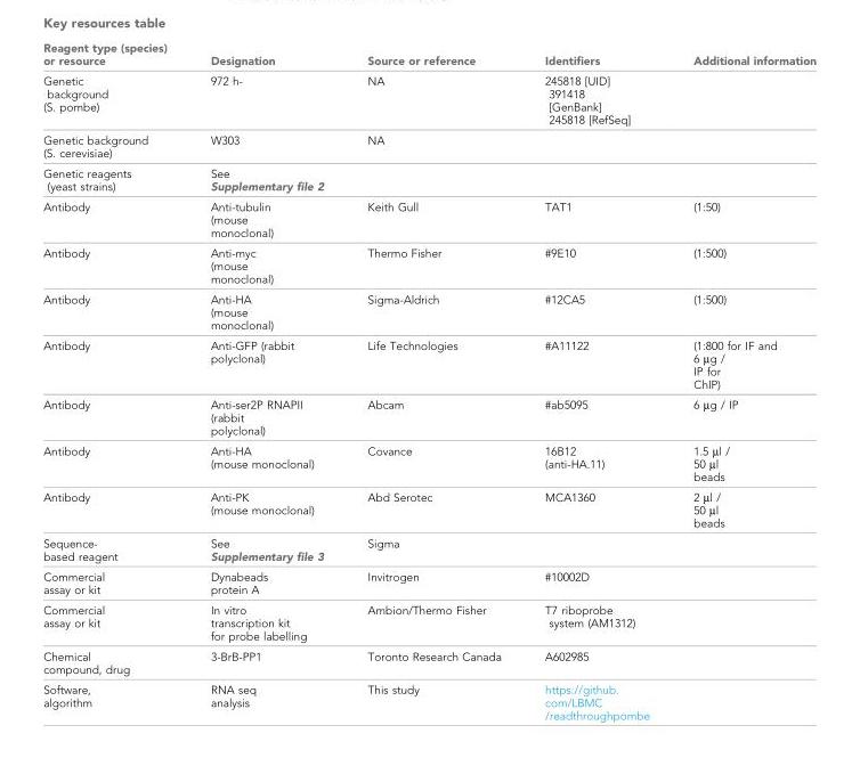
<table><thead><tr><td>Reagent type (species) or resource</td><td>Designation</td><td>Source or reference</td><td>Identifiers</td><td>Additional information</td></tr></thead><tbody><tr><td>Genetic background (S. pombe)</td><td>972 h-</td><td>NA</td><td>245818 [UID] 391418 [GenBank] 245818 [RefSeq]</td><td></td></tr><tr><td>Genetic background (S. cerevisiae)</td><td>W303</td><td>NA</td><td></td><td></td></tr><tr><td>Genetic reagents (yeast strains)</td><td>See Supplementary file 2</td><td></td><td></td><td></td></tr><tr><td>Antibody</td><td>Anti-tubulin (mouse monoclonal)</td><td>Keith Gull</td><td>TAT1</td><td>(1:50)</td></tr><tr><td>Antibody</td><td>Anti-myc (mouse monoclonal)</td><td>Thermo Fisher</td><td>#9E10</td><td>(1:500)</td></tr><tr><td>Antibody</td><td>Anti-HA (mouse monoclonal)</td><td>Sigma-Aldrich</td><td>#12CA5</td><td>(1:500)</td></tr><tr><td>Antibody</td><td>Anti-GFP (rabbit polyclonal)</td><td>Life Technologies</td><td>#A11122</td><td>(1:800 for IF and 6 μg / IP for ChIP)</td></tr><tr><td>Antibody</td><td>Anti-ser2P RNAPII (rabbit polyclonal)</td><td>Abcam</td><td>#ab5095</td><td>6 μg / IP</td></tr><tr><td>Antibody</td><td>Anti-HA (mouse monoclonal)</td><td>Covance</td><td>16B12 (anti-HA.11)</td><td>1.5 µl / 50 µl beads</td></tr><tr><td>Antibody</td><td>Anti-PK (mouse monoclonal)</td><td>Abd Serotec</td><td>MCA1360</td><td>2 µl / 50 µl beads</td></tr><tr><td>Sequence- based reagent</td><td>See Supplementary file 3</td><td>Sigma</td><td></td><td></td></tr><tr><td>Commercial assay or kit</td><td>Dynabeads protein A</td><td>Invitrogen</td><td>#10002D</td><td></td></tr><tr><td>Commercial assay or kit</td><td>In vitro transcription kit for probe labelling</td><td>Ambion/Thermo Fisher</td><td>T7 riboprobe system (AM1312)</td><td></td></tr><tr><td>Chemical compound, drug</td><td>3-BrB-PP1</td><td>Toronto Research Canada</td><td>A602985</td><td></td></tr><tr><td>Software, algorithm</td><td>RNA seq analysis</td><td>This study</td><td>https://github. com/LBMC /readthroughpombe</td><td></td></tr></tbody></table>